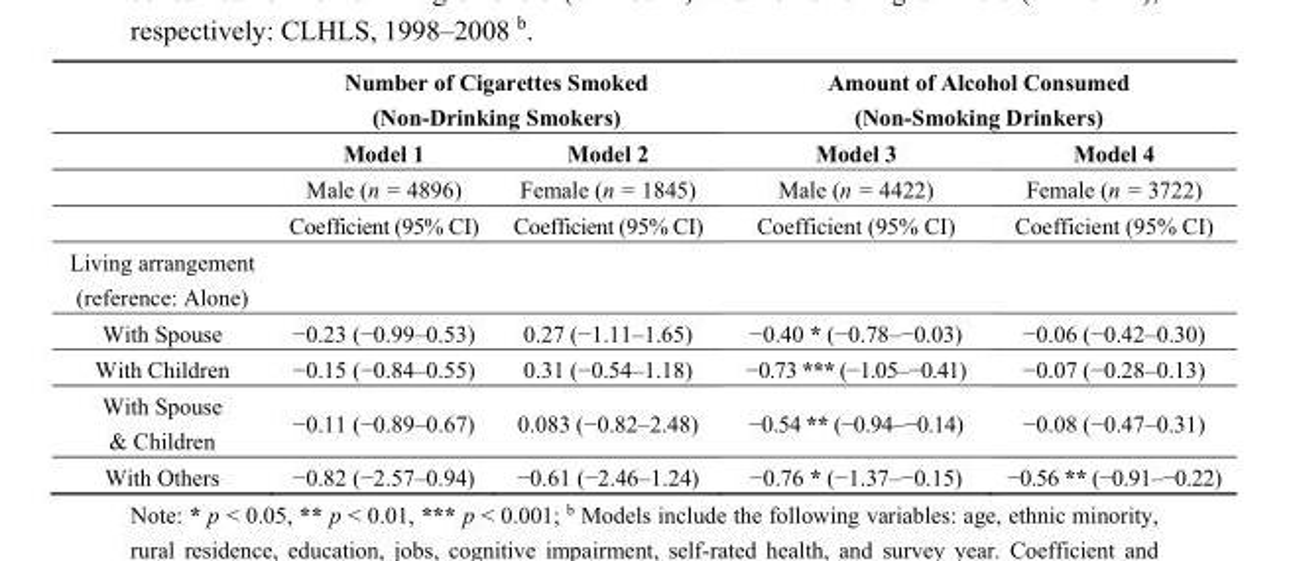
<table><thead><tr><td rowspan="2"></td><td colspan="2">Number of Cigarettes Smoked (Non-Drinking Smokers)</td><td colspan="2">Amount of Alcohol Consumed (Non-Smoking Drinkers)</td></tr><tr><td>Model 1</td><td>Model 2</td><td>Model 3</td><td>Model 4</td></tr></thead><tbody><tr><td></td><td>Male (n = 4896)</td><td>Female (n = 1845)</td><td>Male (n = 4422)</td><td>Female (n = 3722)</td></tr><tr><td></td><td>Coefficient (95% CI)</td><td>Coefficient (95% CI)</td><td>Coefficient (95% CI)</td><td>Coefficient (95% CI)</td></tr><tr><td colspan="5">Living arrangement (reference: Alone)</td></tr><tr><td>With Spouse</td><td>−0.23 (−0.99–0.53)</td><td>0.27 (−1.11–1.65)</td><td>−0.40 * (−0.78–−0.03)</td><td>−0.06 (−0.42–0.30)</td></tr><tr><td>With Children</td><td>−0.15 (−0.84–0.55)</td><td>0.31 (−0.54–1.18)</td><td>−0.73 *** (−1.05–−0.41)</td><td>−0.07 (−0.28–0.13)</td></tr><tr><td>With Spouse &amp; Children</td><td>−0.11 (−0.89–0.67)</td><td>0.083 (−0.82–2.48)</td><td>−0.54 ** (−0.94–−0.14)</td><td>−0.08 (−0.47–0.31)</td></tr><tr><td>With Others</td><td>−0.82 (−2.57–0.94)</td><td>−0.61 (−2.46–1.24)</td><td>−0.76 * (−1.37–−0.15)</td><td>−0.56 ** (−0.91–−0.22)</td></tr></tbody></table>